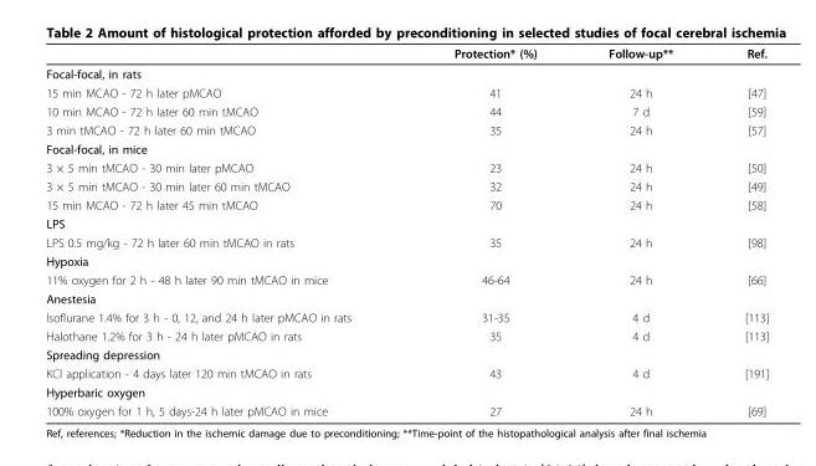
<table><thead><tr><td></td><td>Protection* (%)</td><td>Follow-up**</td><td>Ref.</td></tr></thead><tbody><tr><td colspan="4">Focal-focal, in rats</td></tr><tr><td>15 min MCAO - 72 h later pMCAO</td><td>41</td><td>24 h</td><td>[47]</td></tr><tr><td>10 min MCAO - 72 h later 60 min tMCAO</td><td>44</td><td>7 d</td><td>[59]</td></tr><tr><td>3 min tMCAO - 72 h later 60 min tMCAO</td><td>35</td><td>24 h</td><td>[57]</td></tr><tr><td colspan="4">Focal-focal, in mice</td></tr><tr><td>3 × 5 min tMCAO - 30 min later pMCAO</td><td>23</td><td>24 h</td><td>[50]</td></tr><tr><td>3 × 5 min tMCAO - 30 min later 60 min tMCAO</td><td>32</td><td>24 h</td><td>[49]</td></tr><tr><td>15 min MCAO - 72 h later 45 min tMCAO</td><td>70</td><td>24 h</td><td>[58]</td></tr><tr><td colspan="4">LPS</td></tr><tr><td>LPS 0.5 mg/kg - 72 h later 60 min tMCAO in rats</td><td>35</td><td>24 h</td><td>[98]</td></tr><tr><td colspan="4">Hypoxia</td></tr><tr><td>11% oxygen for 2 h - 48 h later 90 min tMCAO in mice</td><td>46-64</td><td>24 h</td><td>[66]</td></tr><tr><td colspan="4">Anestesia</td></tr><tr><td>Isoflurane 1.4% for 3 h - 0, 12, and 24 h later pMCAO in rats</td><td>31-35</td><td>4 d</td><td>[113]</td></tr><tr><td>Halothane 1.2% for 3 h - 24 h later pMCAO in rats</td><td>35</td><td>4 d</td><td>[113]</td></tr><tr><td colspan="4">Spreading depression</td></tr><tr><td>KCl application - 4 days later 120 min tMCAO in rats</td><td>43</td><td>4 d</td><td>[191]</td></tr><tr><td colspan="4">Hyperbaric oxygen</td></tr><tr><td>100% oxygen for 1 h, 5 days-24 h later pMCAO in mice</td><td>27</td><td>24 h</td><td>[69]</td></tr></tbody></table>